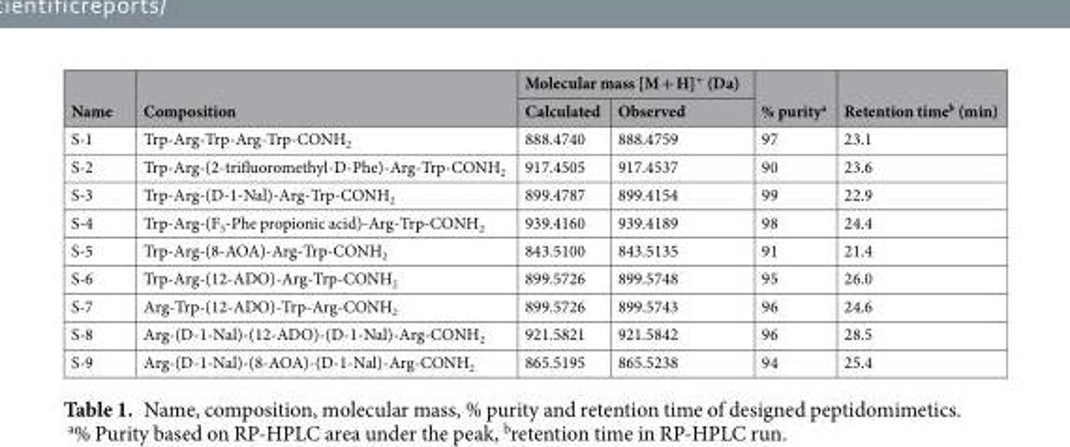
<table><thead><tr><td rowspan="2">Name</td><td rowspan="2">Composition</td><td colspan="2">Molecular mass [M + H]<sup>+</sup> (Da)</td><td rowspan="2">% purity<sup>a</sup></td><td rowspan="2">Retention time<sup>b</sup> (min)</td></tr><tr><td>Calculated</td><td>Observed</td></tr></thead><tbody><tr><td>S-1</td><td>Trp-Arg-Trp-Arg-Trp-CONH<sub>2</sub></td><td>888.4740</td><td>888.4759</td><td>97</td><td>23.1</td></tr><tr><td>S-2</td><td>Trp-Arg-(2-trifluoromethyl-D-Phe)-Arg-Trp-CONH<sub>2</sub></td><td>917.4505</td><td>917.4537</td><td>90</td><td>23.6</td></tr><tr><td>S-3</td><td>Trp-Arg-(D-1-Nal)-Arg-Trp-CONH<sub>2</sub></td><td>899.4787</td><td>899.4154</td><td>99</td><td>22.9</td></tr><tr><td>S-4</td><td>Trp-Arg-(F<sub>5</sub>-Phe propionic acid)-Arg-Trp-CONH<sub>2</sub></td><td>939.4160</td><td>939.4189</td><td>98</td><td>24.4</td></tr><tr><td>S-5</td><td>Trp-Arg-(8-AOA)-Arg-Trp-CONH<sub>2</sub></td><td>843.5100</td><td>843.5135</td><td>91</td><td>21.4</td></tr><tr><td>S-6</td><td>Trp-Arg-(12-ADO)-Arg-Trp-CONH<sub>2</sub></td><td>899.5726</td><td>899.5748</td><td>95</td><td>26.0</td></tr><tr><td>S-7</td><td>Arg-Trp-(12-ADO)-Trp-Arg-CONH<sub>2</sub></td><td>899.5726</td><td>899.5743</td><td>96</td><td>24.6</td></tr><tr><td>S-8</td><td>Arg-(D-1-Nal)-(12-ADO)-(D-1-Nal)-Arg-CONH<sub>2</sub></td><td>921.5821</td><td>921.5842</td><td>96</td><td>28.5</td></tr><tr><td>S-9</td><td>Arg-(D-1-Nal)-(8-AOA)-(D-1-Nal)-Arg-CONH<sub>2</sub></td><td>865.5195</td><td>865.5238</td><td>94</td><td>25.4</td></tr></tbody></table>